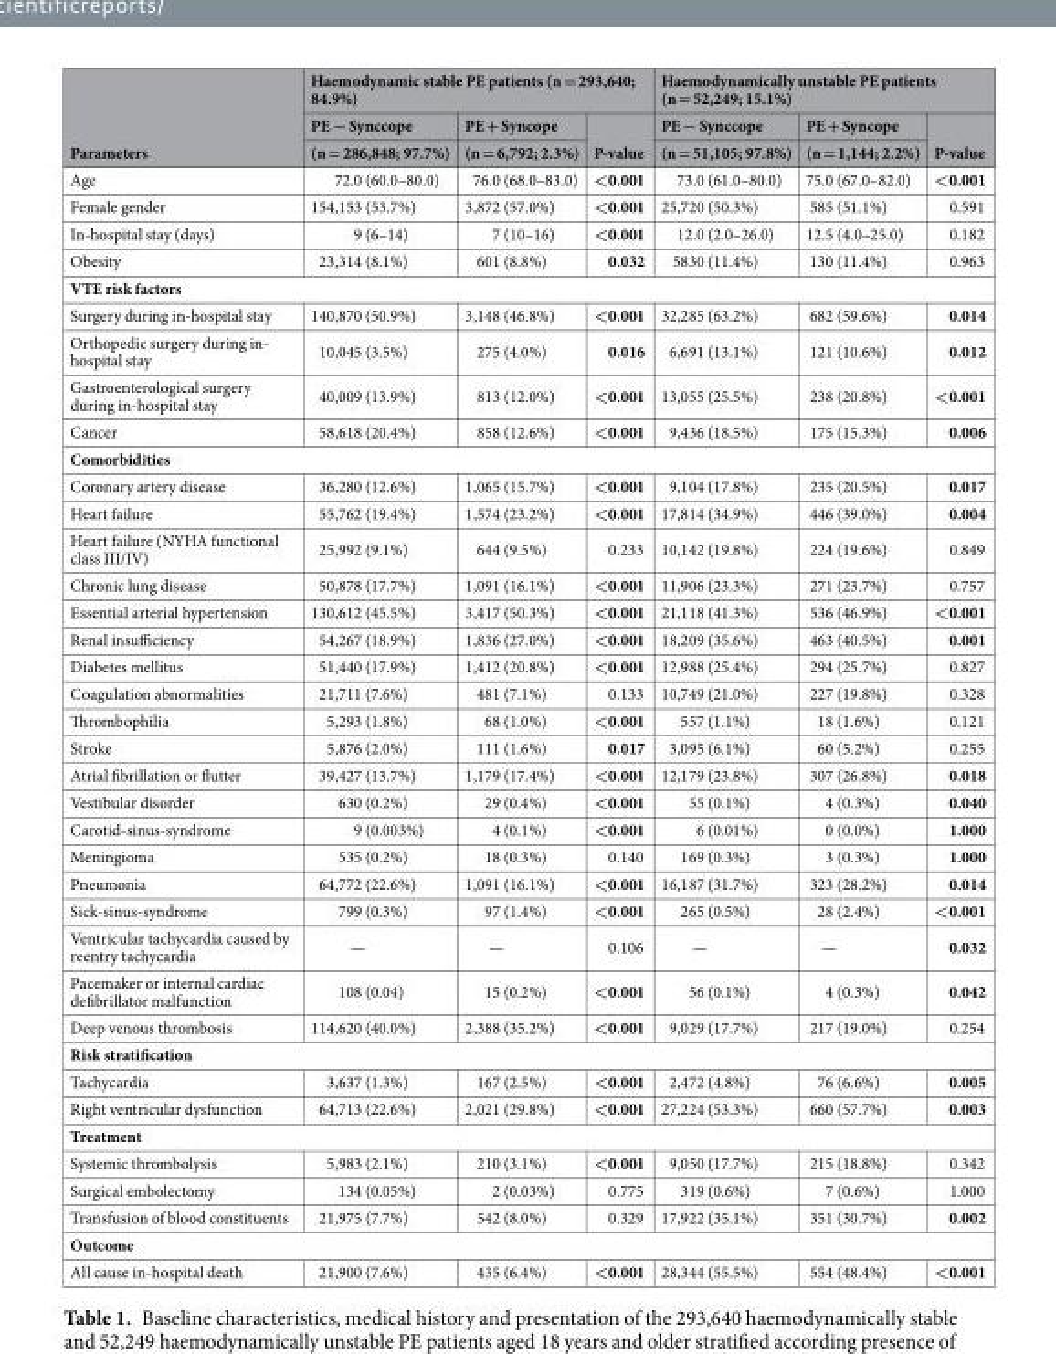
<table><thead><tr><td rowspan="3">Parameters</td><td colspan="3">Haemodynamic stable PE patients (n = 293,640; 84.9%)</td><td colspan="3">Haemodynamically unstable PE patients (n = 52,249; 15.1%)</td></tr><tr><td rowspan="2">PE − Synccope (n = 286,848; 97.7%)</td><td rowspan="2">PE + Syncope (n = 6,792; 2.3%)</td><td rowspan="2">P-value</td><td rowspan="2">PE − Synccope (n = 51,105; 97.8%)</td><td rowspan="2">PE + Syncope (n = 1,144; 2.2%)</td><td rowspan="2">P-value</td></tr><tr></tr></thead><tbody><tr><td>Age</td><td>72.0 (60.0–80.0)</td><td>76.0 (68.0–83.0)</td><td>&lt;0.001</td><td>73.0 (61.0–80.0)</td><td>75.0 (67.0–82.0)</td><td>&lt;0.001</td></tr><tr><td>Female gender</td><td>154,153 (53.7%)</td><td>3,872 (57.0%)</td><td>&lt;0.001</td><td>25,720 (50.3%)</td><td>585 (51.1%)</td><td>0.591</td></tr><tr><td>In-hospital stay (days)</td><td>9 (6–14)</td><td>7 (10–16)</td><td>&lt;0.001</td><td>12.0 (2.0–26.0)</td><td>12.5 (4.0–25.0)</td><td>0.182</td></tr><tr><td>Obesity</td><td>23,314 (8.1%)</td><td>601 (8.8%)</td><td>0.032</td><td>5830 (11.4%)</td><td>130 (11.4%)</td><td>0.963</td></tr><tr><td colspan="7">VTE risk factors</td></tr><tr><td>Surgery during in-hospital stay</td><td>140,870 (50.9%)</td><td>3,148 (46.8%)</td><td>&lt;0.001</td><td>32,285 (63.2%)</td><td>682 (59.6%)</td><td>0.014</td></tr><tr><td>Orthopedic surgery during in- hospital stay</td><td>10,045 (3.5%)</td><td>275 (4.0%)</td><td>0.016</td><td>6,691 (13.1%)</td><td>121 (10.6%)</td><td>0.012</td></tr><tr><td>Gastroenterological surgery during in-hospital stay</td><td>40,009 (13.9%)</td><td>813 (12.0%)</td><td>&lt;0.001</td><td>13,055 (25.5%)</td><td>238 (20.8%)</td><td>&lt;0.001</td></tr><tr><td>Cancer</td><td>58,618 (20.4%)</td><td>858 (12.6%)</td><td>&lt;0.001</td><td>9,436 (18.5%)</td><td>175 (15.3%)</td><td>0.006</td></tr><tr><td colspan="7">Comorbidities</td></tr><tr><td>Coronary artery disease</td><td>36,280 (12.6%)</td><td>1,065 (15.7%)</td><td>&lt;0.001</td><td>9,104 (17.8%)</td><td>235 (20.5%)</td><td>0.017</td></tr><tr><td>Heart failure</td><td>55,762 (19.4%)</td><td>1,574 (23.2%)</td><td>&lt;0.001</td><td>17,814 (34.9%)</td><td>446 (39.0%)</td><td>0.004</td></tr><tr><td>Heart failure (NYHA functional class III/IV)</td><td>25,992 (9.1%)</td><td>644 (9.5%)</td><td>0.233</td><td>10,142 (19.8%)</td><td>224 (19.6%)</td><td>0.849</td></tr><tr><td>Chronic lung disease</td><td>50,878 (17.7%)</td><td>1,091 (16.1%)</td><td>&lt;0.001</td><td>11,906 (23.3%)</td><td>271 (23.7%)</td><td>0.757</td></tr><tr><td>Essential arterial hypertension</td><td>130,612 (45.5%)</td><td>3,417 (50.3%)</td><td>&lt;0.001</td><td>21,118 (41.3%)</td><td>536 (46.9%)</td><td>&lt;0.001</td></tr><tr><td>Renal insufficiency</td><td>54,267 (18.9%)</td><td>1,836 (27.0%)</td><td>&lt;0.001</td><td>18,209 (35.6%)</td><td>463 (40.5%)</td><td>0.001</td></tr><tr><td>Diabetes mellitus</td><td>51,440 (17.9%)</td><td>1,412 (20.8%)</td><td>&lt;0.001</td><td>12,988 (25.4%)</td><td>294 (25.7%)</td><td>0.827</td></tr><tr><td>Coagulation abnormalities</td><td>21,711 (7.6%)</td><td>481 (7.1%)</td><td>0.133</td><td>10,749 (21.0%)</td><td>227 (19.8%)</td><td>0.328</td></tr><tr><td>Thrombophilia</td><td>5,293 (1.8%)</td><td>68 (1.0%)</td><td>&lt;0.001</td><td>557 (1.1%)</td><td>18 (1.6%)</td><td>0.121</td></tr><tr><td>Stroke</td><td>5,876 (2.0%)</td><td>111 (1.6%)</td><td>0.017</td><td>3,095 (6.1%)</td><td>60 (5.2%)</td><td>0.255</td></tr><tr><td>Atrial fibrillation or flutter</td><td>39,427 (13.7%)</td><td>1,179 (17.4%)</td><td>&lt;0.001</td><td>12,179 (23.8%)</td><td>307 (26.8%)</td><td>0.018</td></tr><tr><td>Vestibular disorder</td><td>630 (0.2%)</td><td>29 (0.4%)</td><td>&lt;0.001</td><td>55 (0.1%)</td><td>4 (0.3%)</td><td>0.040</td></tr><tr><td>Carotid-sinus-syndrome</td><td>9 (0.003%)</td><td>4 (0.1%)</td><td>&lt;0.001</td><td>6 (0.01%)</td><td>0 (0.0%)</td><td>1.000</td></tr><tr><td>Meningioma</td><td>535 (0.2%)</td><td>18 (0.3%)</td><td>0.140</td><td>169 (0.3%)</td><td>3 (0.3%)</td><td>1.000</td></tr><tr><td>Pneumonia</td><td>64,772 (22.6%)</td><td>1,091 (16.1%)</td><td>&lt;0.001</td><td>16,187 (31.7%)</td><td>323 (28.2%)</td><td>0.014</td></tr><tr><td>Sick-sinus-syndrome</td><td>799 (0.3%)</td><td>97 (1.4%)</td><td>&lt;0.001</td><td>265 (0.5%)</td><td>28 (2.4%)</td><td>&lt;0.001</td></tr><tr><td>Ventricular tachycardia caused by reentry tachycardia</td><td>—</td><td>—</td><td>0.106</td><td>—</td><td>—</td><td>0.032</td></tr><tr><td>Pacemaker or internal cardiac defibrillator malfunction</td><td>108 (0.04)</td><td>15 (0.2%)</td><td>&lt;0.001</td><td>56 (0.1%)</td><td>4 (0.3%)</td><td>0.042</td></tr><tr><td>Deep venous thrombosis</td><td>114,620 (40.0%)</td><td>2,388 (35.2%)</td><td>&lt;0.001</td><td>9,029 (17.7%)</td><td>217 (19.0%)</td><td>0.254</td></tr><tr><td colspan="7">Risk stratification</td></tr><tr><td>Tachycardia</td><td>3,637 (1.3%)</td><td>167 (2.5%)</td><td>&lt;0.001</td><td>2,472 (4.8%)</td><td>76 (6.6%)</td><td>0.005</td></tr><tr><td>Right ventricular dysfunction</td><td>64,713 (22.6%)</td><td>2,021 (29.8%)</td><td>&lt;0.001</td><td>27,224 (53.3%)</td><td>660 (57.7%)</td><td>0.003</td></tr><tr><td colspan="7">Treatment</td></tr><tr><td>Systemic thrombolysis</td><td>5,983 (2.1%)</td><td>210 (3.1%)</td><td>&lt;0.001</td><td>9,050 (17.7%)</td><td>215 (18.8%)</td><td>0.342</td></tr><tr><td>Surgical embolectomy</td><td>134 (0.05%)</td><td>2 (0.03%)</td><td>0.775</td><td>319 (0.6%)</td><td>7 (0.6%)</td><td>1.000</td></tr><tr><td>Transfusion of blood constituents</td><td>21,975 (7.7%)</td><td>542 (8.0%)</td><td>0.329</td><td>17,922 (35.1%)</td><td>351 (30.7%)</td><td>0.002</td></tr><tr><td colspan="7">Outcome</td></tr><tr><td>All cause in-hospital death</td><td>21,900 (7.6%)</td><td>435 (6.4%)</td><td>&lt;0.001</td><td>28,344 (55.5%)</td><td>554 (48.4%)</td><td>&lt;0.001</td></tr></tbody></table>